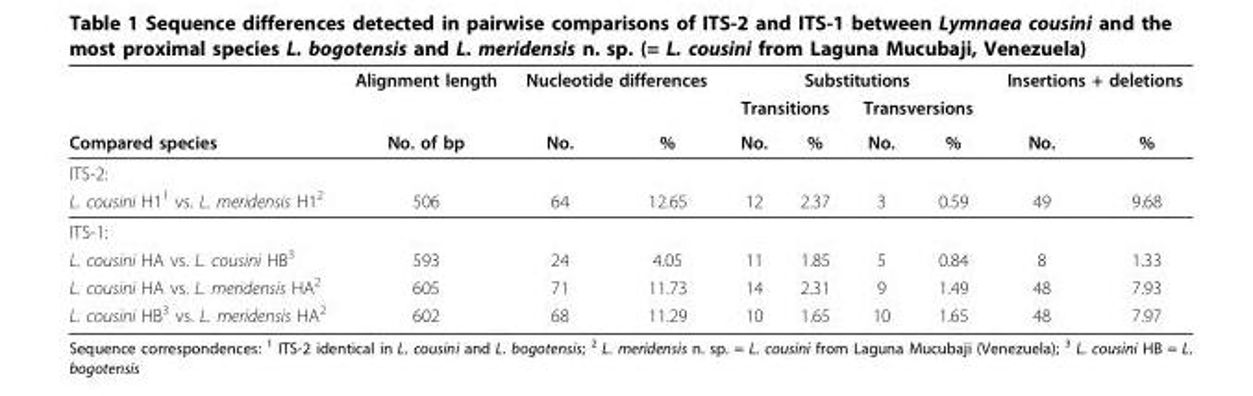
<table><thead><tr><td rowspan="3">Compared species</td><td rowspan="3">Alignment length No. of bp</td><td colspan="2">Nucleotide differences</td><td colspan="4">Substitutions</td><td colspan="2">Insertions + deletions</td></tr><tr><td rowspan="2">No.</td><td rowspan="2">%</td><td colspan="2">Transitions</td><td colspan="2">Transversions</td><td rowspan="2">No.</td><td rowspan="2">%</td></tr><tr><td>No.</td><td>%</td><td>No.</td><td>%</td></tr></thead><tbody><tr><td colspan="10">ITS-2:</td></tr><tr><td>L. cousini H1<sup>1</sup> vs. L. meridensis H1<sup>2</sup></td><td>506</td><td>64</td><td>12.65</td><td>12</td><td>2.37</td><td>3</td><td>0.59</td><td>49</td><td>9.68</td></tr><tr><td colspan="10">ITS-1:</td></tr><tr><td>L. cousini HA vs. L. cousini HB<sup>3</sup></td><td>593</td><td>24</td><td>4.05</td><td>11</td><td>1.85</td><td>5</td><td>0.84</td><td>8</td><td>1.33</td></tr><tr><td>L. cousini HA vs. L. meridensis HA<sup>2</sup></td><td>605</td><td>71</td><td>11.73</td><td>14</td><td>2.31</td><td>9</td><td>1.49</td><td>48</td><td>7.93</td></tr><tr><td>L. cousini HB<sup>3</sup> vs. L. meridensis HA<sup>2</sup></td><td>602</td><td>68</td><td>11.29</td><td>10</td><td>1.65</td><td>10</td><td>1.65</td><td>48</td><td>7.97</td></tr></tbody></table>